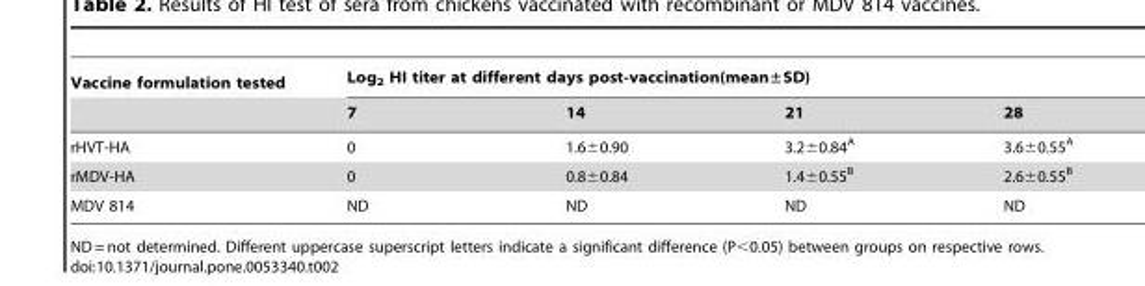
<table><thead><tr><td rowspan="2">Vaccine formulation tested</td><td colspan="4">Log<sub>2</sub> HI titer at different days post-vaccination(mean±SD)</td></tr><tr><td>7</td><td>14</td><td>21</td><td>28</td></tr></thead><tbody><tr><td>rHVT-HA</td><td>0</td><td>1.6±0.90</td><td>3.2±0.84<sup>A</sup></td><td>3.6±0.55<sup>A</sup></td></tr><tr><td>rMDV-HA</td><td>0</td><td>0.8±0.84</td><td>1.4±0.55<sup>B</sup></td><td>2.6±0.55<sup>B</sup></td></tr><tr><td>MDV 814</td><td>ND</td><td>ND</td><td>ND</td><td>ND</td></tr></tbody></table>